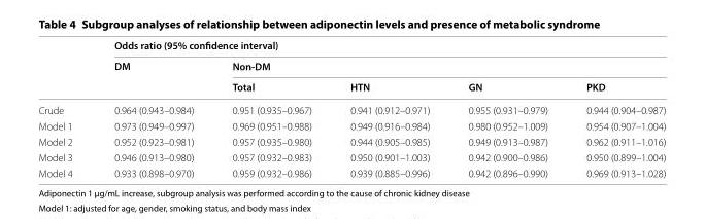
<table><thead><tr><td rowspan="3"></td><td colspan="5">Odds ratio (95% confidence interval)</td></tr><tr><td rowspan="2">DM</td><td colspan="4">Non-DM</td></tr><tr><td>Total</td><td>HTN</td><td>GN</td><td>PKD</td></tr></thead><tbody><tr><td>Crude</td><td>0.964 (0.943–0.984)</td><td>0.951 (0.935–0.967)</td><td>0.941 (0.912–0.971)</td><td>0.955 (0.931–0.979)</td><td>0.944 (0.904–0.987)</td></tr><tr><td>Model 1</td><td>0.973 (0.949–0.997)</td><td>0.969 (0.951–0.988)</td><td>0.949 (0.916–0.984)</td><td>0.980 (0.952–1.009)</td><td>0.954 (0.907–1.004)</td></tr><tr><td>Model 2</td><td>0.952 (0.923–0.981)</td><td>0.957 (0.935–0.980)</td><td>0.944 (0.905–0.985)</td><td>0.949 (0.913–0.987)</td><td>0.962 (0.911–1.016)</td></tr><tr><td>Model 3</td><td>0.946 (0.913–0.980)</td><td>0.957 (0.932–0.983)</td><td>0.950 (0.901–1.003)</td><td>0.942 (0.900–0.986)</td><td>0.950 (0.899–1.004)</td></tr><tr><td>Model 4</td><td>0.933 (0.898–0.970)</td><td>0.959 (0.932–0.986)</td><td>0.939 (0.885–0.996)</td><td>0.942 (0.896–0.990)</td><td>0.969 (0.913–1.028)</td></tr></tbody></table>